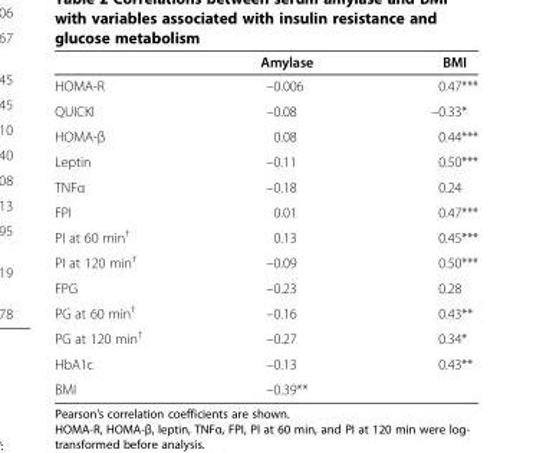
<table><thead><tr><td></td><td>Amylase</td><td>BMI</td></tr></thead><tbody><tr><td>HOMA-R</td><td>–0.006</td><td>0.47***</td></tr><tr><td>QUICKI</td><td>–0.08</td><td>–0.33*</td></tr><tr><td>HOMA-β</td><td>0.08</td><td>0.44***</td></tr><tr><td>Leptin</td><td>–0.11</td><td>0.50***</td></tr><tr><td>TNFα</td><td>–0.18</td><td>0.24</td></tr><tr><td>FPI</td><td>0.01</td><td>0.47***</td></tr><tr><td>PI at 60 min<sup>†</sup></td><td>0.13</td><td>0.45***</td></tr><tr><td>PI at 120 min<sup>†</sup></td><td>–0.09</td><td>0.50***</td></tr><tr><td>FPG</td><td>–0.23</td><td>0.28</td></tr><tr><td>PG at 60 min<sup>†</sup></td><td>–0.16</td><td>0.43**</td></tr><tr><td>PG at 120 min<sup>†</sup></td><td>–0.27</td><td>0.34*</td></tr><tr><td>HbA1c</td><td>–0.13</td><td>0.43**</td></tr><tr><td>BMI</td><td>–0.39**</td><td></td></tr></tbody></table>